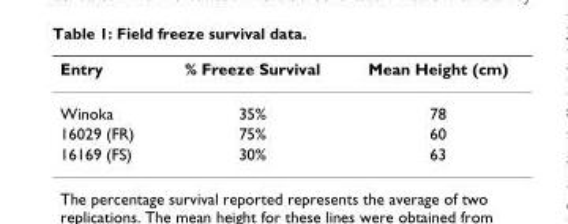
<table><thead><tr><td>Entry</td><td>% Freeze Survival</td><td>Mean Height (cm)</td></tr></thead><tbody><tr><td>Winoka</td><td>35%</td><td>78</td></tr><tr><td>16029 (FR)</td><td>75%</td><td>60</td></tr><tr><td>16169 (FS)</td><td>30%</td><td>63</td></tr></tbody></table>